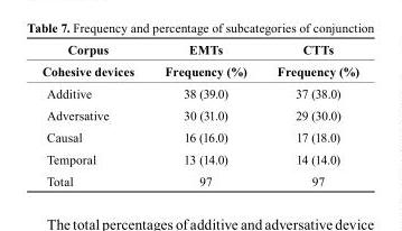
<table><thead><tr><td rowspan="2">corpus cohesive devices</td><td rowspan="2">EMts Frequency (%)</td><td rowspan="2">ctts Frequency (%)</td></tr><tr></tr></thead><tbody><tr><td>Additive</td><td>38 (39.0)</td><td>37 (38.0)</td></tr><tr><td>Adversative</td><td>30 (31.0)</td><td>29 (30.0)</td></tr><tr><td>Causal</td><td>16 (16.0)</td><td>17 (18.0)</td></tr><tr><td>Temporal</td><td>13 (14.0)</td><td>14 (14.0)</td></tr><tr><td>Total</td><td>97</td><td>97</td></tr></tbody></table>